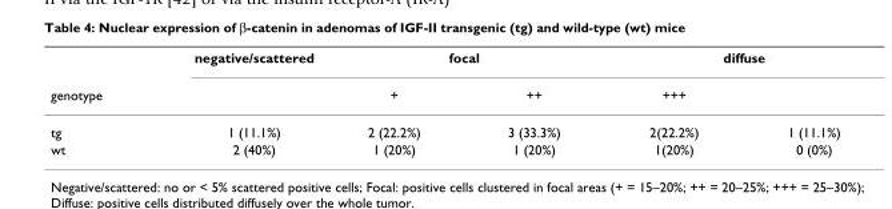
<table><thead><tr><td rowspan="2">genotype</td><td rowspan="2">negative/scattered</td><td colspan="2">focal</td><td colspan="2">diffuse</td></tr><tr><td>+</td><td>++</td><td>+++</td><td></td></tr></thead><tbody><tr><td>tg</td><td>1 (11.1%)</td><td>2 (22.2%)</td><td>3 (33.3%)</td><td>2(22.2%)</td><td>1 (11.1%)</td></tr><tr><td>wt</td><td>2 (40%)</td><td>1 (20%)</td><td>1 (20%)</td><td>1(20%)</td><td>0 (0%)</td></tr></tbody></table>